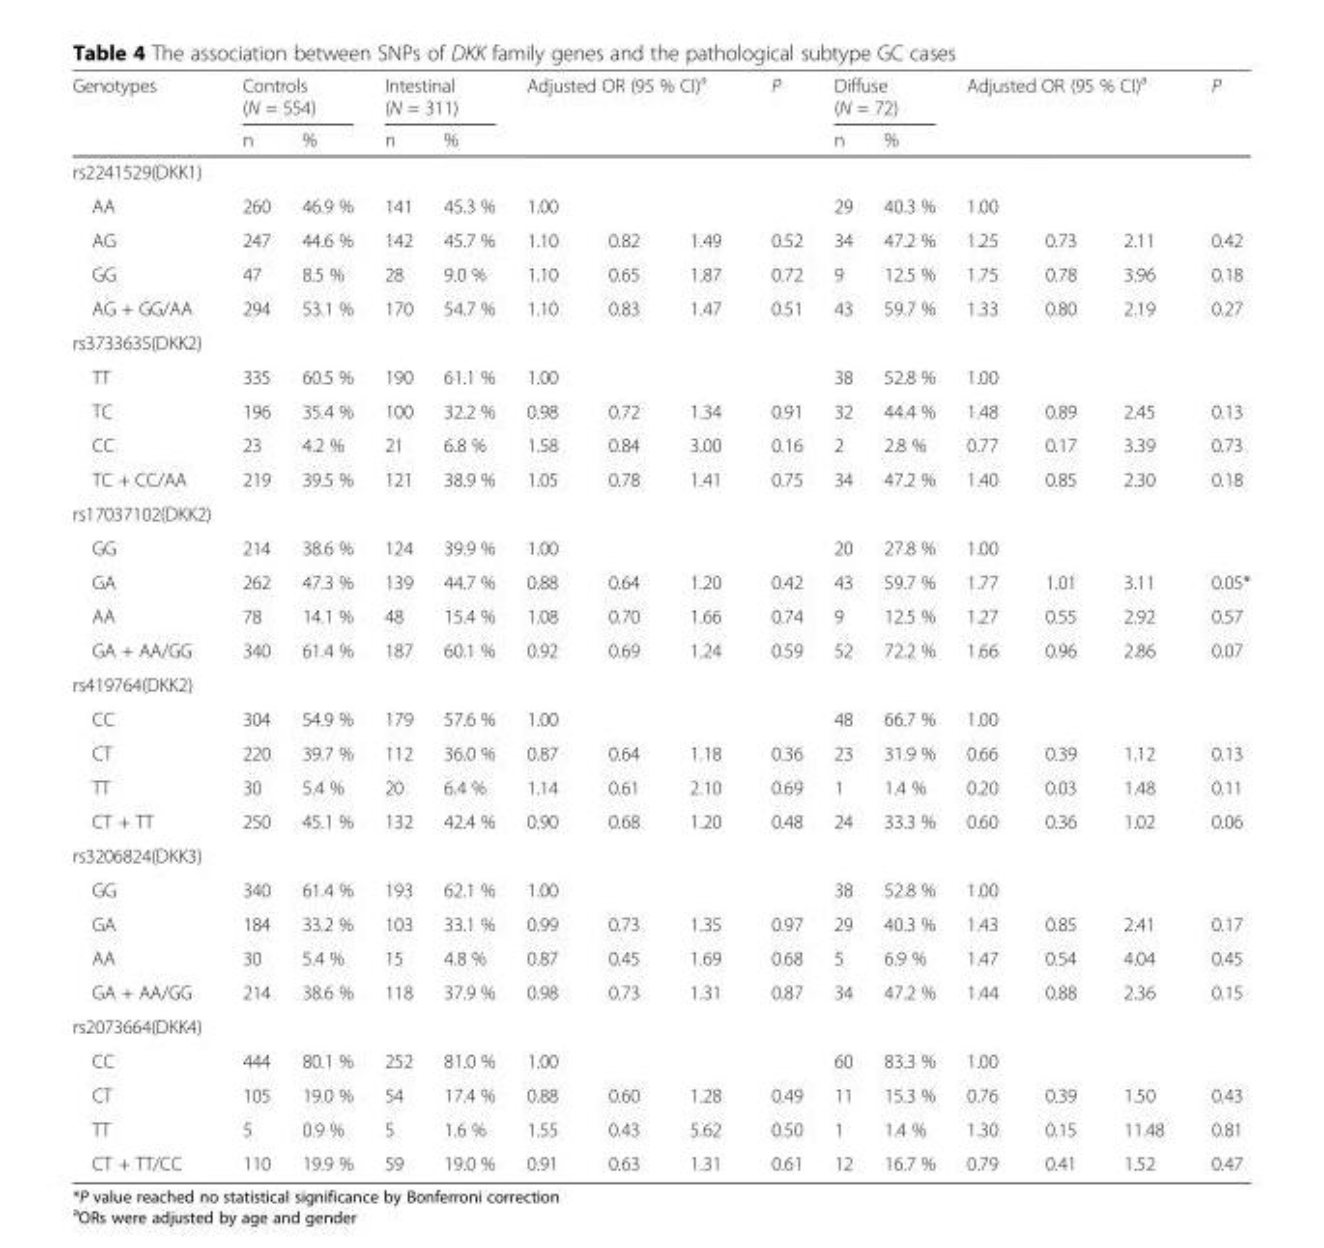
<table><thead><tr><td rowspan="2">Genotypes</td><td colspan="2">Controls (N = 554)</td><td colspan="2">Intestinal (N = 311)</td><td colspan="3">Adjusted OR (95 % CI)<sup>a</sup></td><td rowspan="2">P</td><td colspan="2">Diffuse (N = 72)</td><td colspan="3">Adjusted OR (95 % CI)<sup>a</sup></td><td rowspan="2">P</td></tr><tr><td>n</td><td>%</td><td>n</td><td>%</td><td></td><td></td><td></td><td>n</td><td>%</td><td></td><td></td><td></td></tr></thead><tbody><tr><td colspan="15">rs2241529(DKK1)</td></tr><tr><td>AA</td><td>260</td><td>46.9 %</td><td>141</td><td>45.3 %</td><td>1.00</td><td></td><td></td><td></td><td>29</td><td>40.3 %</td><td>1.00</td><td></td><td></td><td></td></tr><tr><td>AG</td><td>247</td><td>44.6 %</td><td>142</td><td>45.7 %</td><td>1.10</td><td>0.82</td><td>1.49</td><td>0.52</td><td>34</td><td>47.2 %</td><td>1.25</td><td>0.73</td><td>2.11</td><td>0.42</td></tr><tr><td>GG</td><td>47</td><td>8.5 %</td><td>28</td><td>9.0 %</td><td>1.10</td><td>0.65</td><td>1.87</td><td>0.72</td><td>9</td><td>12.5 %</td><td>1.75</td><td>0.78</td><td>3.96</td><td>0.18</td></tr><tr><td>AG + GG/AA</td><td>294</td><td>53.1 %</td><td>170</td><td>54.7 %</td><td>1.10</td><td>0.83</td><td>1.47</td><td>0.51</td><td>43</td><td>59.7 %</td><td>1.33</td><td>0.80</td><td>2.19</td><td>0.27</td></tr><tr><td colspan="15">rs3733635(DKK2)</td></tr><tr><td>TT</td><td>335</td><td>60.5 %</td><td>190</td><td>61.1 %</td><td>1.00</td><td></td><td></td><td></td><td>38</td><td>52.8 %</td><td>1.00</td><td></td><td></td><td></td></tr><tr><td>TC</td><td>196</td><td>35.4 %</td><td>100</td><td>32.2 %</td><td>0.98</td><td>0.72</td><td>1.34</td><td>0.91</td><td>32</td><td>44.4 %</td><td>1.48</td><td>0.89</td><td>2.45</td><td>0.13</td></tr><tr><td>CC</td><td>23</td><td>4.2 %</td><td>21</td><td>6.8 %</td><td>1.58</td><td>0.84</td><td>3.00</td><td>0.16</td><td>2</td><td>2.8 %</td><td>0.77</td><td>0.17</td><td>3.39</td><td>0.73</td></tr><tr><td>TC + CC/AA</td><td>219</td><td>39.5 %</td><td>121</td><td>38.9 %</td><td>1.05</td><td>0.78</td><td>1.41</td><td>0.75</td><td>34</td><td>47.2 %</td><td>1.40</td><td>0.85</td><td>2.30</td><td>0.18</td></tr><tr><td colspan="15">rs17037102(DKK2)</td></tr><tr><td>GG</td><td>214</td><td>38.6 %</td><td>124</td><td>39.9 %</td><td>1.00</td><td></td><td></td><td></td><td>20</td><td>27.8 %</td><td>1.00</td><td></td><td></td><td></td></tr><tr><td>GA</td><td>262</td><td>47.3 %</td><td>139</td><td>44.7 %</td><td>0.88</td><td>0.64</td><td>1.20</td><td>0.42</td><td>43</td><td>59.7 %</td><td>1.77</td><td>1.01</td><td>3.11</td><td>0.05*</td></tr><tr><td>AA</td><td>78</td><td>14.1 %</td><td>48</td><td>15.4 %</td><td>1.08</td><td>0.70</td><td>1.66</td><td>0.74</td><td>9</td><td>12.5 %</td><td>1.27</td><td>0.55</td><td>2.92</td><td>0.57</td></tr><tr><td>GA + AA/GG</td><td>340</td><td>61.4 %</td><td>187</td><td>60.1 %</td><td>0.92</td><td>0.69</td><td>1.24</td><td>0.59</td><td>52</td><td>72.2 %</td><td>1.66</td><td>0.96</td><td>2.86</td><td>0.07</td></tr><tr><td colspan="15">rs419764(DKK2)</td></tr><tr><td>CC</td><td>304</td><td>54.9 %</td><td>179</td><td>57.6 %</td><td>1.00</td><td></td><td></td><td></td><td>48</td><td>66.7 %</td><td>1.00</td><td></td><td></td><td></td></tr><tr><td>CT</td><td>220</td><td>39.7 %</td><td>112</td><td>36.0 %</td><td>0.87</td><td>0.64</td><td>1.18</td><td>0.36</td><td>23</td><td>31.9 %</td><td>0.66</td><td>0.39</td><td>1.12</td><td>0.13</td></tr><tr><td>TT</td><td>30</td><td>5.4 %</td><td>20</td><td>6.4 %</td><td>1.14</td><td>0.61</td><td>2.10</td><td>0.69</td><td>1</td><td>1.4 %</td><td>0.20</td><td>0.03</td><td>1.48</td><td>0.11</td></tr><tr><td>CT + TT</td><td>250</td><td>45.1 %</td><td>132</td><td>42.4 %</td><td>0.90</td><td>0.68</td><td>1.20</td><td>0.48</td><td>24</td><td>33.3 %</td><td>0.60</td><td>0.36</td><td>1.02</td><td>0.06</td></tr><tr><td colspan="15">rs3206824(DKK3)</td></tr><tr><td>GG</td><td>340</td><td>61.4 %</td><td>193</td><td>62.1 %</td><td>1.00</td><td></td><td></td><td></td><td>38</td><td>52.8 %</td><td>1.00</td><td></td><td></td><td></td></tr><tr><td>GA</td><td>184</td><td>33.2 %</td><td>103</td><td>33.1 %</td><td>0.99</td><td>0.73</td><td>1.35</td><td>0.97</td><td>29</td><td>40.3 %</td><td>1.43</td><td>0.85</td><td>2.41</td><td>0.17</td></tr><tr><td>AA</td><td>30</td><td>5.4 %</td><td>15</td><td>4.8 %</td><td>0.87</td><td>0.45</td><td>1.69</td><td>0.68</td><td>5</td><td>6.9 %</td><td>1.47</td><td>0.54</td><td>4.04</td><td>0.45</td></tr><tr><td>GA + AA/GG</td><td>214</td><td>38.6 %</td><td>118</td><td>37.9 %</td><td>0.98</td><td>0.73</td><td>1.31</td><td>0.87</td><td>34</td><td>47.2 %</td><td>1.44</td><td>0.88</td><td>2.36</td><td>0.15</td></tr><tr><td colspan="15">rs2073664(DKK4)</td></tr><tr><td>CC</td><td>444</td><td>80.1 %</td><td>252</td><td>81.0 %</td><td>1.00</td><td></td><td></td><td></td><td>60</td><td>83.3 %</td><td>1.00</td><td></td><td></td><td></td></tr><tr><td>CT</td><td>105</td><td>19.0 %</td><td>54</td><td>17.4 %</td><td>0.88</td><td>0.60</td><td>1.28</td><td>0.49</td><td>11</td><td>15.3 %</td><td>0.76</td><td>0.39</td><td>1.50</td><td>0.43</td></tr><tr><td>TT</td><td>5</td><td>0.9 %</td><td>5</td><td>1.6 %</td><td>1.55</td><td>0.43</td><td>5.62</td><td>0.50</td><td>1</td><td>1.4 %</td><td>1.30</td><td>0.15</td><td>11.48</td><td>0.81</td></tr><tr><td>CT + TT/CC</td><td>110</td><td>19.9 %</td><td>59</td><td>19.0 %</td><td>0.91</td><td>0.63</td><td>1.31</td><td>0.61</td><td>12</td><td>16.7 %</td><td>0.79</td><td>0.41</td><td>1.52</td><td>0.47</td></tr></tbody></table>